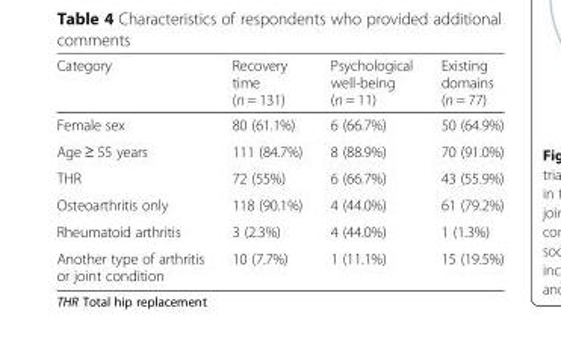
<table><thead><tr><td>Category</td><td>Recovery time (n = 131)</td><td>Psychological well-being (n = 11)</td><td>Existing domains (n = 77)</td></tr></thead><tbody><tr><td>Female sex</td><td>80 (61.1%)</td><td>6 (66.7%)</td><td>50 (64.9%)</td></tr><tr><td>Age ≥ 55 years</td><td>111 (84.7%)</td><td>8 (88.9%)</td><td>70 (91.0%)</td></tr><tr><td>THR</td><td>72 (55%)</td><td>6 (66.7%)</td><td>43 (55.9%)</td></tr><tr><td>Osteoarthritis only</td><td>118 (90.1%)</td><td>4 (44.0%)</td><td>61 (79.2%)</td></tr><tr><td>Rheumatoid arthritis</td><td>3 (2.3%)</td><td>4 (44.0%)</td><td>1 (1.3%)</td></tr><tr><td>Another type of arthritis or joint condition</td><td>10 (7.7%)</td><td>1 (11.1%)</td><td>15 (19.5%)</td></tr></tbody></table>